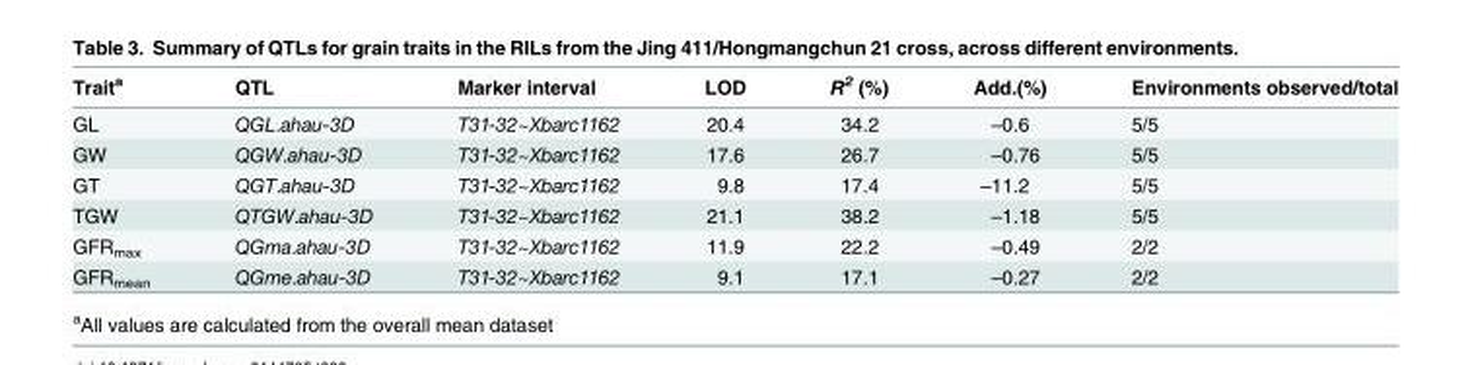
<table><thead><tr><td>Trait<sup>a</sup></td><td>QTL</td><td>Marker interval</td><td>LOD</td><td>R<sup>2</sup> (%)</td><td>Add.(%)</td><td>Environments observed/total</td></tr></thead><tbody><tr><td>GL</td><td>QGL.ahau-3D</td><td>T31-32~Xbarc1162</td><td>20.4</td><td>34.2</td><td>–0.6</td><td>5/5</td></tr><tr><td>GW</td><td>QGW.ahau-3D</td><td>T31-32~Xbarc1162</td><td>17.6</td><td>26.7</td><td>–0.76</td><td>5/5</td></tr><tr><td>GT</td><td>QGT.ahau-3D</td><td>T31-32~Xbarc1162</td><td>9.8</td><td>17.4</td><td>–11.2</td><td>5/5</td></tr><tr><td>TGW</td><td>QTGW.ahau-3D</td><td>T31-32~Xbarc1162</td><td>21.1</td><td>38.2</td><td>–1.18</td><td>5/5</td></tr><tr><td>GFR<sub>max</sub></td><td>QGma.ahau-3D</td><td>T31-32~Xbarc1162</td><td>11.9</td><td>22.2</td><td>–0.49</td><td>2/2</td></tr><tr><td>GFR<sub>mean</sub></td><td>QGme.ahau-3D</td><td>T31-32~Xbarc1162</td><td>9.1</td><td>17.1</td><td>–0.27</td><td>2/2</td></tr></tbody></table>